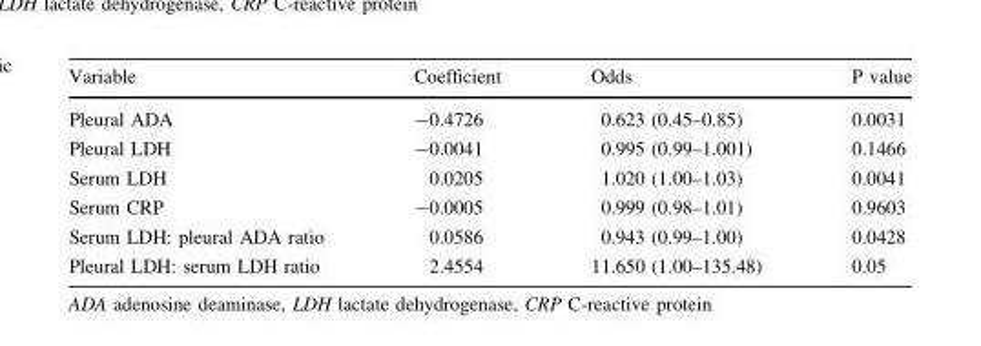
<table><thead><tr><td>Variable</td><td>Coefficient</td><td>Odds</td><td>P value</td></tr></thead><tbody><tr><td>Pleural ADA</td><td>-0.4726</td><td>0.623 (0.45–0.85)</td><td>0.0031</td></tr><tr><td>Pleural LDH</td><td>-0.0041</td><td>0.995 (0.99–1.001)</td><td>0.1466</td></tr><tr><td>Serum LDH</td><td>0.0205</td><td>1.020 (1.00–1.03)</td><td>0.0041</td></tr><tr><td>Serum CRP</td><td>-0.0005</td><td>0.999 (0.98–1.01)</td><td>0.9603</td></tr><tr><td>Serum LDH: pleural ADA ratio</td><td>0.0586</td><td>0.943 (0.99–1.00)</td><td>0.0428</td></tr><tr><td>Pleural LDH: serum LDH ratio</td><td>2.4554</td><td>11.650 (1.00–135.48)</td><td>0.05</td></tr></tbody></table>